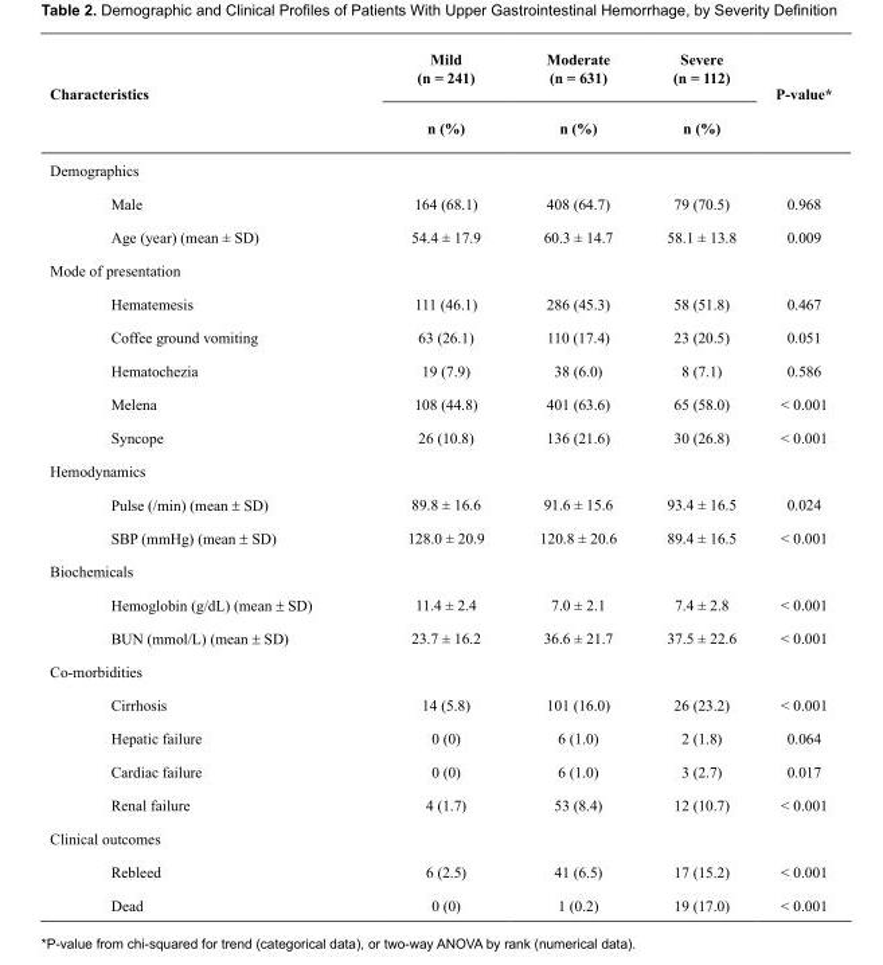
<table><thead><tr><td rowspan="2">Characteristics</td><td rowspan="2">Mild (n = 241) n (%)</td><td rowspan="2">Moderate (n = 631) n (%)</td><td rowspan="2">Severe (n = 112) n (%)</td><td rowspan="2">P-value*</td></tr><tr></tr></thead><tbody><tr><td colspan="5">Demographics</td></tr><tr><td>Male</td><td>164 (68.1)</td><td>408 (64.7)</td><td>79 (70.5)</td><td>0.968</td></tr><tr><td>Age (year) (mean ± SD)</td><td>54.4 ± 17.9</td><td>60.3 ± 14.7</td><td>58.1 ± 13.8</td><td>0.009</td></tr><tr><td colspan="5">Mode of presentation</td></tr><tr><td>Hematemesis</td><td>111 (46.1)</td><td>286 (45.3)</td><td>58 (51.8)</td><td>0.467</td></tr><tr><td>Coffee ground vomiting</td><td>63 (26.1)</td><td>110 (17.4)</td><td>23 (20.5)</td><td>0.051</td></tr><tr><td>Hematochezia</td><td>19 (7.9)</td><td>38 (6.0)</td><td>8 (7.1)</td><td>0.586</td></tr><tr><td>Melena</td><td>108 (44.8)</td><td>401 (63.6)</td><td>65 (58.0)</td><td>&lt; 0.001</td></tr><tr><td>Syncope</td><td>26 (10.8)</td><td>136 (21.6)</td><td>30 (26.8)</td><td>&lt; 0.001</td></tr><tr><td colspan="5">Hemodynamics</td></tr><tr><td>Pulse (/min) (mean ± SD)</td><td>89.8 ± 16.6</td><td>91.6 ± 15.6</td><td>93.4 ± 16.5</td><td>0.024</td></tr><tr><td>SBP (mmHg) (mean ± SD)</td><td>128.0 ± 20.9</td><td>120.8 ± 20.6</td><td>89.4 ± 16.5</td><td>&lt; 0.001</td></tr><tr><td colspan="5">Biochemicals</td></tr><tr><td>Hemoglobin (g/dL) (mean ± SD)</td><td>11.4 ± 2.4</td><td>7.0 ± 2.1</td><td>7.4 ± 2.8</td><td>&lt; 0.001</td></tr><tr><td>BUN (mmol/L) (mean ± SD)</td><td>23.7 ± 16.2</td><td>36.6 ± 21.7</td><td>37.5 ± 22.6</td><td>&lt; 0.001</td></tr><tr><td colspan="5">Co-morbidities</td></tr><tr><td>Cirrhosis</td><td>14 (5.8)</td><td>101 (16.0)</td><td>26 (23.2)</td><td>&lt; 0.001</td></tr><tr><td>Hepatic failure</td><td>0 (0)</td><td>6 (1.0)</td><td>2 (1.8)</td><td>0.064</td></tr><tr><td>Cardiac failure</td><td>0 (0)</td><td>6 (1.0)</td><td>3 (2.7)</td><td>0.017</td></tr><tr><td>Renal failure</td><td>4 (1.7)</td><td>53 (8.4)</td><td>12 (10.7)</td><td>&lt; 0.001</td></tr><tr><td colspan="5">Clinical outcomes</td></tr><tr><td>Rebleed</td><td>6 (2.5)</td><td>41 (6.5)</td><td>17 (15.2)</td><td>&lt; 0.001</td></tr><tr><td>Dead</td><td>0 (0)</td><td>1 (0.2)</td><td>19 (17.0)</td><td>&lt; 0.001</td></tr></tbody></table>